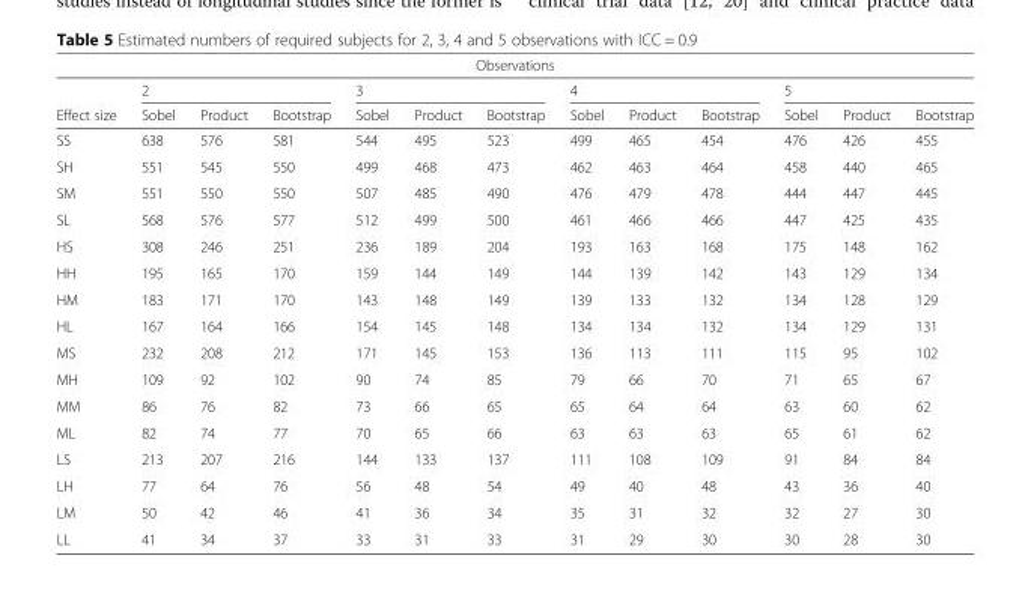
<table><thead><tr><td colspan="13">Observations</td></tr><tr><td rowspan="2">Effect size</td><td colspan="3">2</td><td colspan="3">3</td><td colspan="3">4</td><td colspan="3">5</td></tr><tr><td>Sobel</td><td>Product</td><td>Bootstrap</td><td>Sobel</td><td>Product</td><td>Bootstrap</td><td>Sobel</td><td>Product</td><td>Bootstrap</td><td>Sobel</td><td>Product</td><td>Bootstrap</td></tr></thead><tbody><tr><td>SS</td><td>638</td><td>576</td><td>581</td><td>544</td><td>495</td><td>523</td><td>499</td><td>465</td><td>454</td><td>476</td><td>426</td><td>455</td></tr><tr><td>SH</td><td>551</td><td>545</td><td>550</td><td>499</td><td>468</td><td>473</td><td>462</td><td>463</td><td>464</td><td>458</td><td>440</td><td>465</td></tr><tr><td>SM</td><td>551</td><td>550</td><td>550</td><td>507</td><td>485</td><td>490</td><td>476</td><td>479</td><td>478</td><td>444</td><td>447</td><td>445</td></tr><tr><td>SL</td><td>568</td><td>576</td><td>577</td><td>512</td><td>499</td><td>500</td><td>461</td><td>466</td><td>466</td><td>447</td><td>425</td><td>435</td></tr><tr><td>HS</td><td>308</td><td>246</td><td>251</td><td>236</td><td>189</td><td>204</td><td>193</td><td>163</td><td>168</td><td>175</td><td>148</td><td>162</td></tr><tr><td>HH</td><td>195</td><td>165</td><td>170</td><td>159</td><td>144</td><td>149</td><td>144</td><td>139</td><td>142</td><td>143</td><td>129</td><td>134</td></tr><tr><td>HM</td><td>183</td><td>171</td><td>170</td><td>143</td><td>148</td><td>149</td><td>139</td><td>133</td><td>132</td><td>134</td><td>128</td><td>129</td></tr><tr><td>HL</td><td>167</td><td>164</td><td>166</td><td>154</td><td>145</td><td>148</td><td>134</td><td>134</td><td>132</td><td>134</td><td>129</td><td>131</td></tr><tr><td>MS</td><td>232</td><td>208</td><td>212</td><td>171</td><td>145</td><td>153</td><td>136</td><td>113</td><td>111</td><td>115</td><td>95</td><td>102</td></tr><tr><td>MH</td><td>109</td><td>92</td><td>102</td><td>90</td><td>74</td><td>85</td><td>79</td><td>66</td><td>70</td><td>71</td><td>65</td><td>67</td></tr><tr><td>MM</td><td>86</td><td>76</td><td>82</td><td>73</td><td>66</td><td>65</td><td>65</td><td>64</td><td>64</td><td>63</td><td>60</td><td>62</td></tr><tr><td>ML</td><td>82</td><td>74</td><td>77</td><td>70</td><td>65</td><td>66</td><td>63</td><td>63</td><td>63</td><td>65</td><td>61</td><td>62</td></tr><tr><td>LS</td><td>213</td><td>207</td><td>216</td><td>144</td><td>133</td><td>137</td><td>111</td><td>108</td><td>109</td><td>91</td><td>84</td><td>84</td></tr><tr><td>LH</td><td>77</td><td>64</td><td>76</td><td>56</td><td>48</td><td>54</td><td>49</td><td>40</td><td>48</td><td>43</td><td>36</td><td>40</td></tr><tr><td>LM</td><td>50</td><td>42</td><td>46</td><td>41</td><td>36</td><td>34</td><td>35</td><td>31</td><td>32</td><td>32</td><td>27</td><td>30</td></tr><tr><td>LL</td><td>41</td><td>34</td><td>37</td><td>33</td><td>31</td><td>33</td><td>31</td><td>29</td><td>30</td><td>30</td><td>28</td><td>30</td></tr></tbody></table>